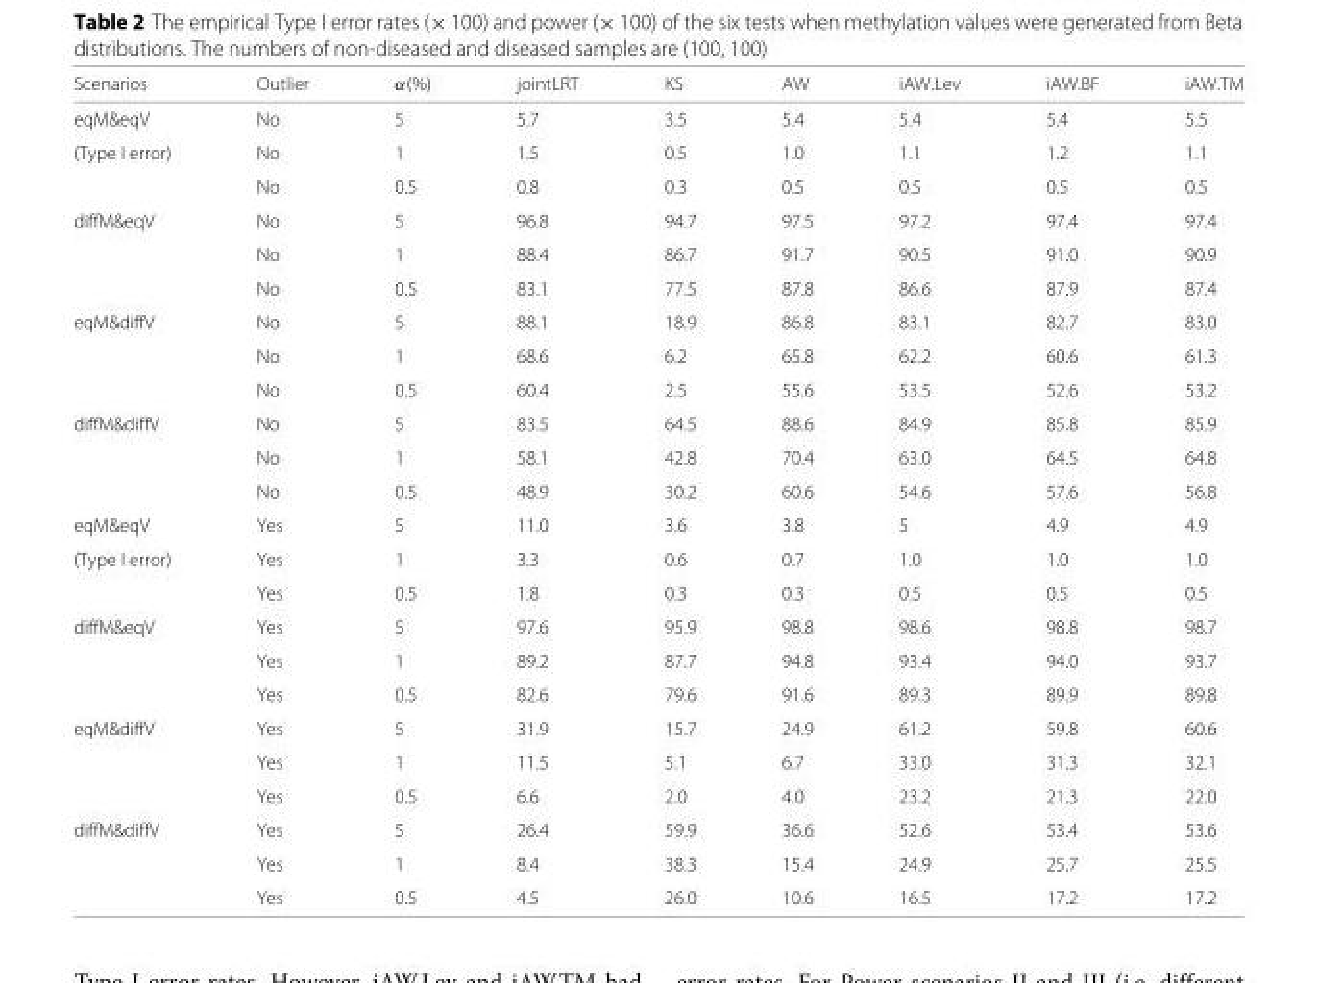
<table><thead><tr><td>Scenarios</td><td>Outlier</td><td>α(%)</td><td>jointLRT</td><td>KS</td><td>AW</td><td>iAW.Lev</td><td>iAW.BF</td><td>iAW.TM</td></tr></thead><tbody><tr><td>eqM&amp;eqV</td><td>No</td><td>5</td><td>5.7</td><td>3.5</td><td>5.4</td><td>5.4</td><td>5.4</td><td>5.5</td></tr><tr><td rowspan="2">(Type I error)</td><td>No</td><td>1</td><td>1.5</td><td>0.5</td><td>1.0</td><td>1.1</td><td>1.2</td><td>1.1</td></tr><tr><td>No</td><td>0.5</td><td>0.8</td><td>0.3</td><td>0.5</td><td>0.5</td><td>0.5</td><td>0.5</td></tr><tr><td rowspan="3">diffM&amp;eqV</td><td>No</td><td>5</td><td>96.8</td><td>94.7</td><td>97.5</td><td>97.2</td><td>97.4</td><td>97.4</td></tr><tr><td>No</td><td>1</td><td>88.4</td><td>86.7</td><td>91.7</td><td>90.5</td><td>91.0</td><td>90.9</td></tr><tr><td>No</td><td>0.5</td><td>83.1</td><td>77.5</td><td>87.8</td><td>86.6</td><td>87.9</td><td>87.4</td></tr><tr><td rowspan="3">eqM&amp;diffV</td><td>No</td><td>5</td><td>88.1</td><td>18.9</td><td>86.8</td><td>83.1</td><td>82.7</td><td>83.0</td></tr><tr><td>No</td><td>1</td><td>68.6</td><td>6.2</td><td>65.8</td><td>62.2</td><td>60.6</td><td>61.3</td></tr><tr><td>No</td><td>0.5</td><td>60.4</td><td>2.5</td><td>55.6</td><td>53.5</td><td>52.6</td><td>53.2</td></tr><tr><td rowspan="3">diffM&amp;diffV</td><td>No</td><td>5</td><td>83.5</td><td>64.5</td><td>88.6</td><td>84.9</td><td>85.8</td><td>85.9</td></tr><tr><td>No</td><td>1</td><td>58.1</td><td>42.8</td><td>70.4</td><td>63.0</td><td>64.5</td><td>64.8</td></tr><tr><td>No</td><td>0.5</td><td>48.9</td><td>30.2</td><td>60.6</td><td>54.6</td><td>57.6</td><td>56.8</td></tr><tr><td>eqM&amp;eqV</td><td>Yes</td><td>5</td><td>11.0</td><td>3.6</td><td>3.8</td><td>5</td><td>4.9</td><td>4.9</td></tr><tr><td rowspan="2">(Type I error)</td><td>Yes</td><td>1</td><td>3.3</td><td>0.6</td><td>0.7</td><td>1.0</td><td>1.0</td><td>1.0</td></tr><tr><td>Yes</td><td>0.5</td><td>1.8</td><td>0.3</td><td>0.3</td><td>0.5</td><td>0.5</td><td>0.5</td></tr><tr><td rowspan="3">diffM&amp;eqV</td><td>Yes</td><td>5</td><td>97.6</td><td>95.9</td><td>98.8</td><td>98.6</td><td>98.8</td><td>98.7</td></tr><tr><td>Yes</td><td>1</td><td>89.2</td><td>87.7</td><td>94.8</td><td>93.4</td><td>94.0</td><td>93.7</td></tr><tr><td>Yes</td><td>0.5</td><td>82.6</td><td>79.6</td><td>91.6</td><td>89.3</td><td>89.9</td><td>89.8</td></tr><tr><td rowspan="3">eqM&amp;diffV</td><td>Yes</td><td>5</td><td>31.9</td><td>15.7</td><td>24.9</td><td>61.2</td><td>59.8</td><td>60.6</td></tr><tr><td>Yes</td><td>1</td><td>11.5</td><td>5.1</td><td>6.7</td><td>33.0</td><td>31.3</td><td>32.1</td></tr><tr><td>Yes</td><td>0.5</td><td>6.6</td><td>2.0</td><td>4.0</td><td>23.2</td><td>21.3</td><td>22.0</td></tr><tr><td rowspan="3">diffM&amp;diffV</td><td>Yes</td><td>5</td><td>26.4</td><td>59.9</td><td>36.6</td><td>52.6</td><td>53.4</td><td>53.6</td></tr><tr><td>Yes</td><td>1</td><td>8.4</td><td>38.3</td><td>15.4</td><td>24.9</td><td>25.7</td><td>25.5</td></tr><tr><td>Yes</td><td>0.5</td><td>4.5</td><td>26.0</td><td>10.6</td><td>16.5</td><td>17.2</td><td>17.2</td></tr></tbody></table>